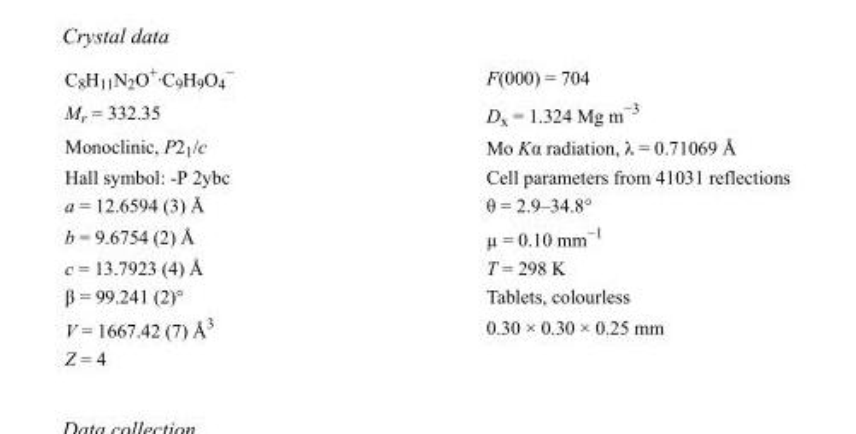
<table><tbody><tr><td>C<sub>8</sub>H<sub>11</sub>N<sub>2</sub>O<sup>+</sup>·C<sub>9</sub>H<sub>9</sub>O<sub>4</sub> <sup>−</sup></td><td>F(000) = 704</td></tr><tr><td>M<sub>r</sub> = 332.35</td><td>D<sub>x</sub> = 1.324 Mg m<sup>−3</sup></td></tr><tr><td>Monoclinic, P2<sub>1</sub>/c</td><td>Mo Kα radiation, λ = 0.71069 Å</td></tr><tr><td>Hall symbol: -P 2ybc</td><td>Cell parameters from 41031 reflections</td></tr><tr><td>a = 12.6594 (3) Å</td><td>θ = 2.9–34.8°</td></tr><tr><td>b = 9.6754 (2) Å</td><td>µ = 0.10 mm<sup>−1</sup></td></tr><tr><td>c = 13.7923 (4) Å</td><td>T = 298 K</td></tr><tr><td>β = 99.241 (2)°</td><td>Tablets, colourless</td></tr><tr><td>V = 1667.42 (7) Å<sup>3</sup></td><td>0.30 × 0.30 × 0.25 mm</td></tr><tr><td>Z = 4</td><td></td></tr></tbody></table>